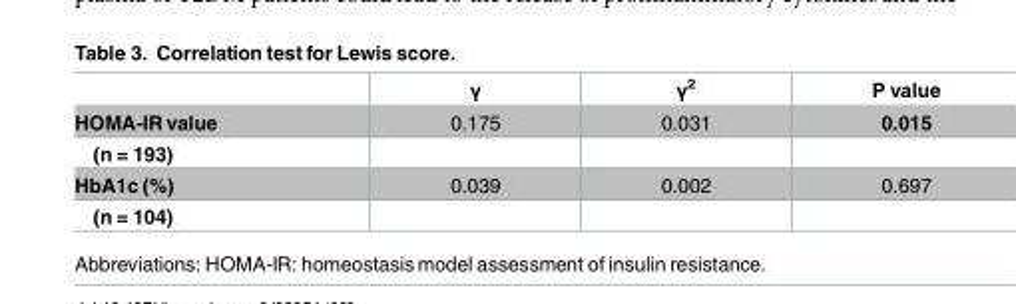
<table><thead><tr><td></td><td>γ</td><td>γ<sup>2</sup></td><td>P value</td></tr></thead><tbody><tr><td>HOMA-IR value</td><td>0.175</td><td>0.031</td><td>0.015</td></tr><tr><td colspan="4">(n = 193)</td></tr><tr><td>HbA1c (%)</td><td>0.039</td><td>0.002</td><td>0.697</td></tr><tr><td>(n = 104)</td><td></td><td></td><td></td></tr></tbody></table>